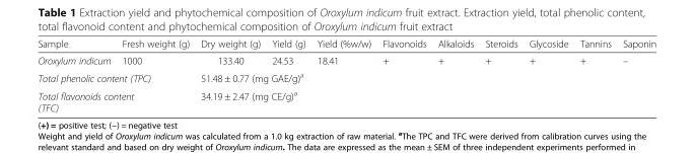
<table><thead><tr><td>Sample</td><td>Fresh weight (g)</td><td>Dry weight (g)</td><td>Yield (g)</td><td>Yield (%w/w)</td><td>Flavonoids</td><td>Alkaloids</td><td>Steroids</td><td>Glycoside</td><td>Tannins</td><td>Saponin</td></tr></thead><tbody><tr><td>Oroxylum indicum</td><td>1000</td><td>133.40</td><td>24.53</td><td>18.41</td><td>+</td><td>+</td><td>+</td><td>+</td><td>+</td><td>–</td></tr><tr><td colspan="2">Total phenolic content (TPC)</td><td colspan="9">51.48 ± 0.77 (mg GAE/g)<sup>a</sup></td></tr><tr><td colspan="2">Total flavonoids content (TFC)</td><td colspan="9">34.19 ± 2.47 (mg CE/g)<sup>a</sup></td></tr></tbody></table>